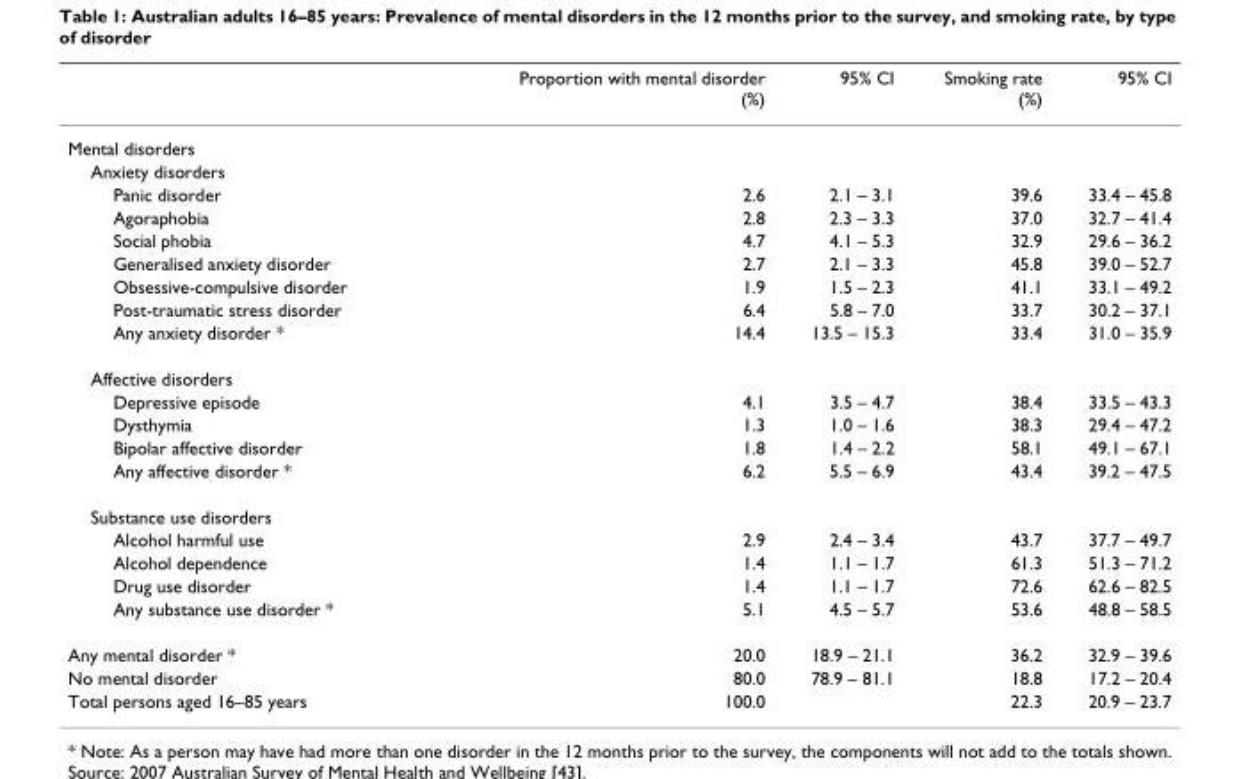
<table><thead><tr><td></td><td>Proportion with mental disorder (%)</td><td>95% CI</td><td>Smoking rate (%)</td><td>95% CI</td></tr></thead><tbody><tr><td colspan="5">Mental disorders</td></tr><tr><td colspan="5">Anxiety disorders</td></tr><tr><td>Panic disorder</td><td>2.6</td><td>2.1 – 3.1</td><td>39.6</td><td>33.4 – 45.8</td></tr><tr><td>Agoraphobia</td><td>2.8</td><td>2.3 – 3.3</td><td>37.0</td><td>32.7 – 41.4</td></tr><tr><td>Social phobia</td><td>4.7</td><td>4.1 – 5.3</td><td>32.9</td><td>29.6 – 36.2</td></tr><tr><td>Generalised anxiety disorder</td><td>2.7</td><td>2.1 – 3.3</td><td>45.8</td><td>39.0 – 52.7</td></tr><tr><td>Obsessive-compulsive disorder</td><td>1.9</td><td>1.5 – 2.3</td><td>41.1</td><td>33.1 – 49.2</td></tr><tr><td>Post-traumatic stress disorder</td><td>6.4</td><td>5.8 – 7.0</td><td>33.7</td><td>30.2 – 37.1</td></tr><tr><td>Any anxiety disorder *</td><td>14.4</td><td>13.5 – 15.3</td><td>33.4</td><td>31.0 – 35.9</td></tr><tr><td colspan="5">Affective disorders</td></tr><tr><td>Depressive episode</td><td>4.1</td><td>3.5 – 4.7</td><td>38.4</td><td>33.5 – 43.3</td></tr><tr><td>Dysthymia</td><td>1.3</td><td>1.0 – 1.6</td><td>38.3</td><td>29.4 – 47.2</td></tr><tr><td>Bipolar affective disorder</td><td>1.8</td><td>1.4 – 2.2</td><td>58.1</td><td>49.1 – 67.1</td></tr><tr><td>Any affective disorder *</td><td>6.2</td><td>5.5 – 6.9</td><td>43.4</td><td>39.2 – 47.5</td></tr><tr><td colspan="5">Substance use disorders</td></tr><tr><td>Alcohol harmful use</td><td>2.9</td><td>2.4 – 3.4</td><td>43.7</td><td>37.7 – 49.7</td></tr><tr><td>Alcohol dependence</td><td>1.4</td><td>1.1 – 1.7</td><td>61.3</td><td>51.3 – 71.2</td></tr><tr><td>Drug use disorder</td><td>1.4</td><td>1.1 – 1.7</td><td>72.6</td><td>62.6 – 82.5</td></tr><tr><td>Any substance use disorder *</td><td>5.1</td><td>4.5 – 5.7</td><td>53.6</td><td>48.8 – 58.5</td></tr><tr><td>Any mental disorder *</td><td>20.0</td><td>18.9 – 21.1</td><td>36.2</td><td>32.9 – 39.6</td></tr><tr><td>No mental disorder</td><td>80.0</td><td>78.9 – 81.1</td><td>18.8</td><td>17.2 – 20.4</td></tr><tr><td>Total persons aged 16–85 years</td><td>100.0</td><td></td><td>22.3</td><td>20.9 – 23.7</td></tr></tbody></table>